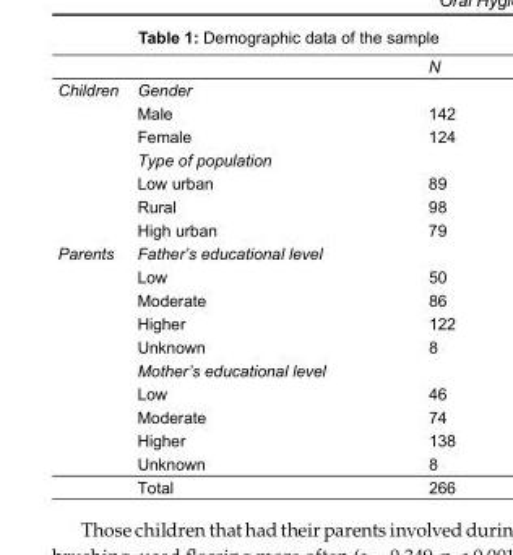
<table><thead><tr><td></td><td></td><td>N</td></tr></thead><tbody><tr><td rowspan="7">Children</td><td>Gender</td><td></td></tr><tr><td>Male</td><td>142</td></tr><tr><td>Female</td><td>124</td></tr><tr><td>Type of population</td><td></td></tr><tr><td>Low urban</td><td>89</td></tr><tr><td>Rural</td><td>98</td></tr><tr><td>High urban</td><td>79</td></tr><tr><td rowspan="11">Parents</td><td>Father’s educational level</td><td></td></tr><tr><td>Low</td><td>50</td></tr><tr><td>Moderate</td><td>86</td></tr><tr><td>Higher</td><td>122</td></tr><tr><td>Unknown</td><td>8</td></tr><tr><td>Mother’s educational level</td><td></td></tr><tr><td>Low</td><td>46</td></tr><tr><td>Moderate</td><td>74</td></tr><tr><td>Higher</td><td>138</td></tr><tr><td>Unknown</td><td>8</td></tr><tr><td>Total</td><td>266</td></tr></tbody></table>